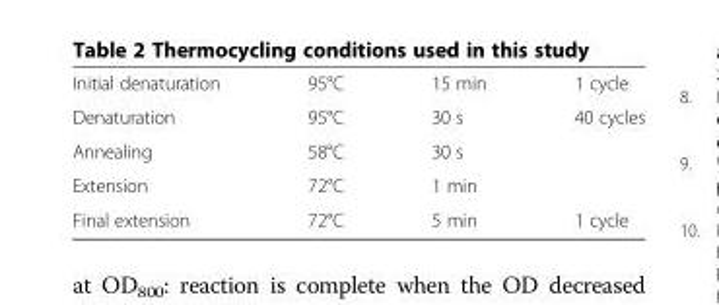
<table><tbody><tr><td>Initial denaturation</td><td>95°C</td><td>15 min</td><td>1 cycle</td></tr><tr><td>Denaturation</td><td>95°C</td><td>30 s</td><td rowspan="3">40 cycles</td></tr><tr><td>Annealing</td><td>58°C</td><td>30 s</td></tr><tr><td>Extension</td><td>72°C</td><td>1 min</td></tr><tr><td>Final extension</td><td>72°C</td><td>5 min</td><td>1 cycle</td></tr></tbody></table>